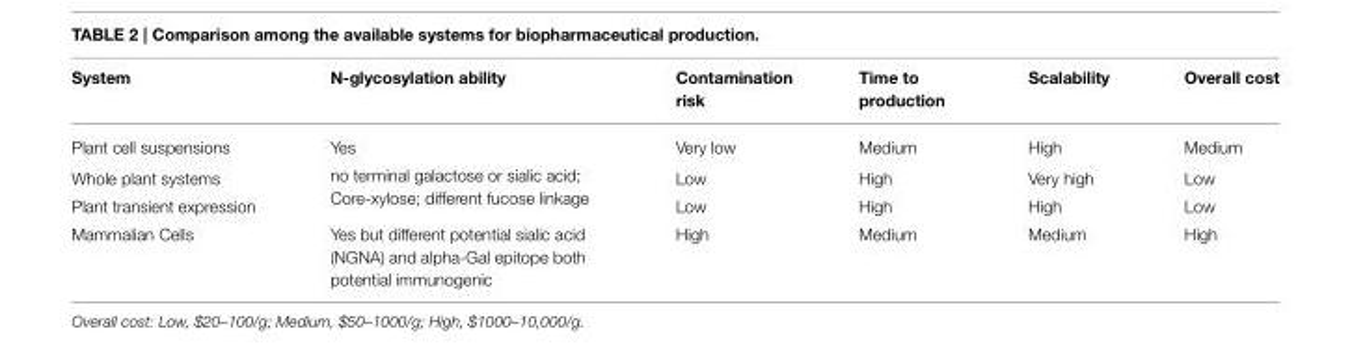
<table><thead><tr><td>System</td><td>N-glycosylation ability</td><td>Contamination risk</td><td>Time to production</td><td>Scalability</td><td>Overall cost</td></tr></thead><tbody><tr><td>Plant cell suspensions</td><td>Yes</td><td>Very low</td><td>Medium</td><td>High</td><td>Medium</td></tr><tr><td>Whole plant systems</td><td rowspan="2">no terminal galactose or sialic acid; Core-xylose; different fucose linkage</td><td>Low</td><td>High</td><td>Very high</td><td>Low</td></tr><tr><td>Plant transient expression</td><td>Low</td><td>High</td><td>High</td><td>Low</td></tr><tr><td>Mammalian Cells</td><td>Yes but different potential sialic acid (NGNA) and alpha-Gal epitope both potential immunogenic</td><td>High</td><td>Medium</td><td>Medium</td><td>High</td></tr></tbody></table>